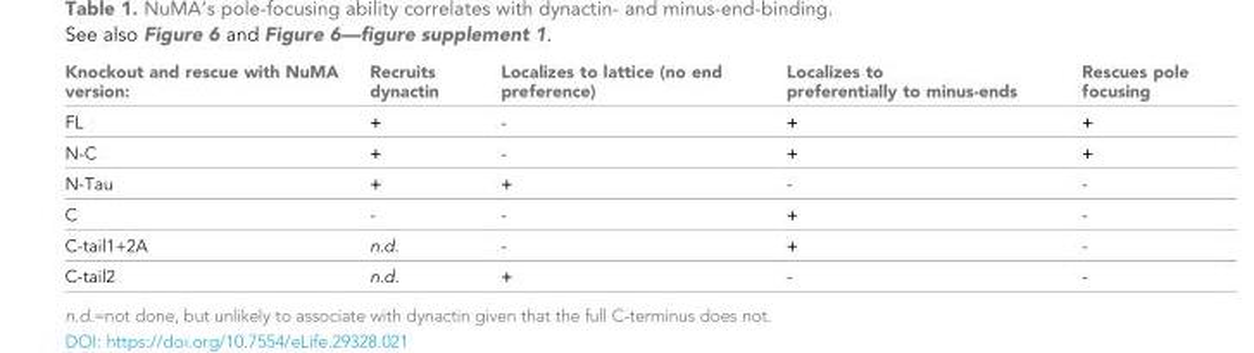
<table><thead><tr><td>Knockout and rescue with NuMA version:</td><td>Recruits dynactin</td><td>Localizes to lattice (no end preference)</td><td>Localizes to preferentially to minus-ends</td><td>Rescues pole focusing</td></tr></thead><tbody><tr><td>FL</td><td>+</td><td>-</td><td>+</td><td>+</td></tr><tr><td>N-C</td><td>+</td><td>-</td><td>+</td><td>+</td></tr><tr><td>N-Tau</td><td>+</td><td>+</td><td>-</td><td>-</td></tr><tr><td>C</td><td>-</td><td>-</td><td>+</td><td>-</td></tr><tr><td>C-tail1+2A</td><td>n.d.</td><td>-</td><td>+</td><td>-</td></tr><tr><td>C-tail2</td><td>n.d.</td><td>+</td><td>-</td><td>-</td></tr></tbody></table>